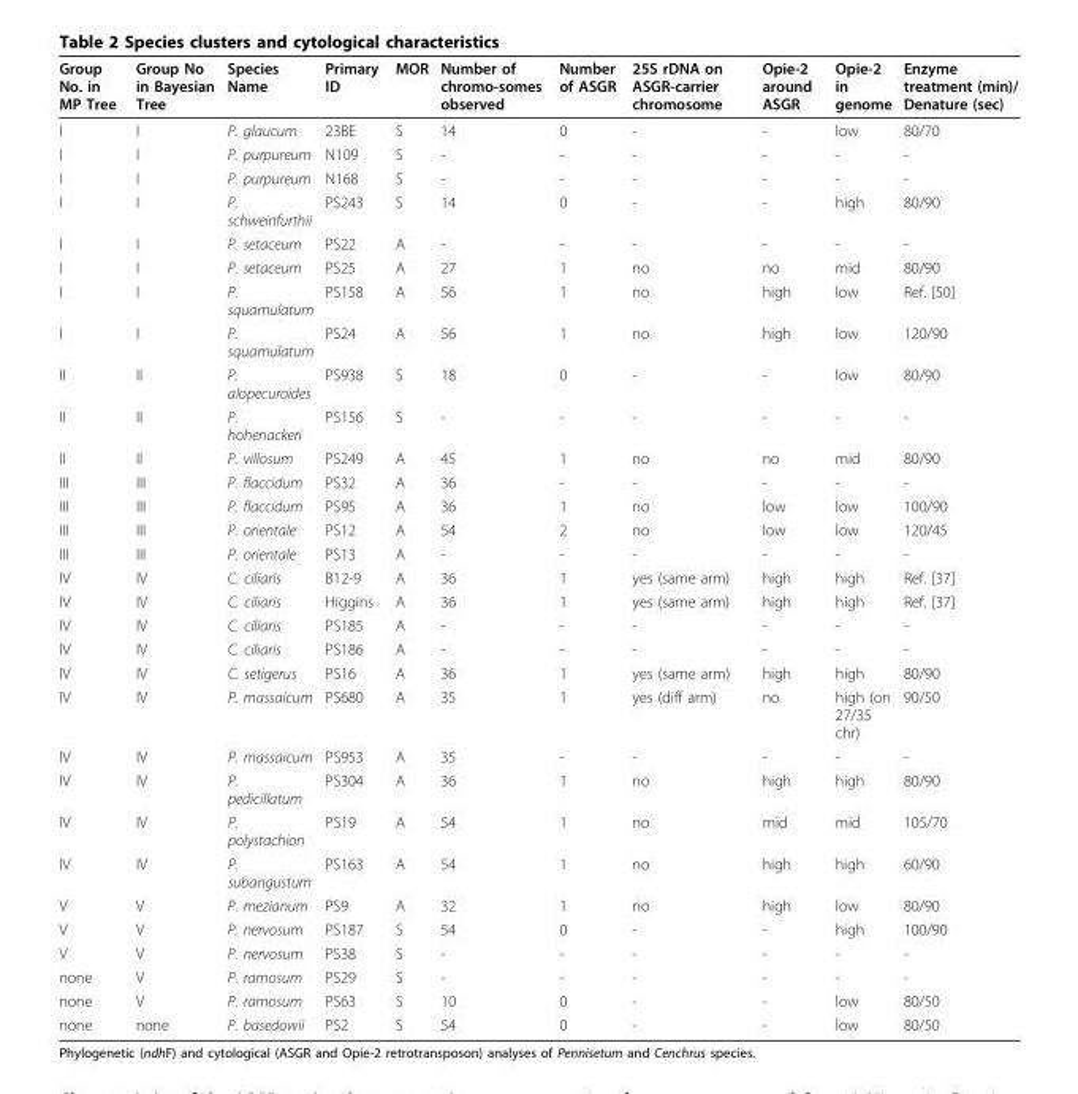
<table><thead><tr><td>Group No. in MP Tree</td><td>Group No in Bayesian Tree</td><td>Species Name</td><td>Primary ID</td><td>MOR</td><td>Number of chromo-somes observed</td><td>Number of ASGR</td><td>25S rDNA on ASGR-carrier chromosome</td><td>Opie-2 around ASGR</td><td>Opie-2 in genome</td><td>Enzyme treatment (min)/ Denature (sec)</td></tr></thead><tbody><tr><td>I</td><td>I</td><td>P. glaucum</td><td>23BE</td><td>S</td><td>14</td><td>0</td><td>-</td><td>-</td><td>low</td><td>80/70</td></tr><tr><td>I</td><td>I</td><td>P. purpureum</td><td>N109</td><td>S</td><td>-</td><td>-</td><td>-</td><td>-</td><td>-</td><td>-</td></tr><tr><td>I</td><td>I</td><td>P. purpureum</td><td>N168</td><td>S</td><td>-</td><td>-</td><td>-</td><td>-</td><td>-</td><td>-</td></tr><tr><td>I</td><td>I</td><td>P. schweinfurthii</td><td>PS243</td><td>S</td><td>14</td><td>0</td><td>-</td><td>-</td><td>high</td><td>80/90</td></tr><tr><td>I</td><td>I</td><td>P. setaceum</td><td>PS22</td><td>A</td><td>-</td><td>-</td><td>-</td><td>-</td><td>-</td><td>-</td></tr><tr><td>I</td><td>I</td><td>P. setaceum</td><td>PS25</td><td>A</td><td>27</td><td>1</td><td>no</td><td>no</td><td>mid</td><td>80/90</td></tr><tr><td>I</td><td>I</td><td>P. squamulatum</td><td>PS158</td><td>A</td><td>56</td><td>1</td><td>no</td><td>high</td><td>low</td><td>Ref. [50]</td></tr><tr><td>I</td><td>I</td><td>P. squamulatum</td><td>PS24</td><td>A</td><td>56</td><td>1</td><td>no</td><td>high</td><td>low</td><td>120/90</td></tr><tr><td>II</td><td>II</td><td>P. alopecuroides</td><td>PS938</td><td>S</td><td>18</td><td>0</td><td>-</td><td>-</td><td>low</td><td>80/90</td></tr><tr><td>II</td><td>II</td><td>P. hohenackeri</td><td>PS156</td><td>S</td><td>-</td><td>-</td><td>-</td><td>-</td><td>-</td><td>-</td></tr><tr><td>II</td><td>II</td><td>P. villosum</td><td>PS249</td><td>A</td><td>45</td><td>1</td><td>no</td><td>no</td><td>mid</td><td>80/90</td></tr><tr><td>III</td><td>III</td><td>P. flaccidum</td><td>PS32</td><td>A</td><td>36</td><td>-</td><td>-</td><td>-</td><td>-</td><td>-</td></tr><tr><td>III</td><td>III</td><td>P. flaccidum</td><td>PS95</td><td>A</td><td>36</td><td>1</td><td>no</td><td>low</td><td>low</td><td>100/90</td></tr><tr><td>III</td><td>III</td><td>P. orientale</td><td>PS12</td><td>A</td><td>54</td><td>2</td><td>no</td><td>low</td><td>low</td><td>120/45</td></tr><tr><td>III</td><td>III</td><td>P. orientale</td><td>PS13</td><td>A</td><td>-</td><td>-</td><td>-</td><td>-</td><td>-</td><td>-</td></tr><tr><td>IV</td><td>IV</td><td>C. ciliaris</td><td>B12-9</td><td>A</td><td>36</td><td>1</td><td>yes (same arm)</td><td>high</td><td>high</td><td>Ref. [37]</td></tr><tr><td>IV</td><td>IV</td><td>C. ciliaris</td><td>Higgins</td><td>A</td><td>36</td><td>1</td><td>yes (same arm)</td><td>high</td><td>high</td><td>Ref. [37]</td></tr><tr><td>IV</td><td>IV</td><td>C. ciliaris</td><td>PS185</td><td>A</td><td>-</td><td>-</td><td>-</td><td>-</td><td>-</td><td>-</td></tr><tr><td>IV</td><td>IV</td><td>C. ciliaris</td><td>PS186</td><td>A</td><td>-</td><td>-</td><td>-</td><td>-</td><td>-</td><td>-</td></tr><tr><td>IV</td><td>IV</td><td>C. setigerus</td><td>PS16</td><td>A</td><td>36</td><td>1</td><td>yes (same arm)</td><td>high</td><td>high</td><td>80/90</td></tr><tr><td>IV</td><td>IV</td><td>P. massaicum</td><td>PS680</td><td>A</td><td>35</td><td>1</td><td>yes (diff arm)</td><td>no</td><td>high (on 27/35 chr)</td><td>90/50</td></tr><tr><td>IV</td><td>IV</td><td>P. massaicum</td><td>PS953</td><td>A</td><td>35</td><td>-</td><td>-</td><td>-</td><td>-</td><td>-</td></tr><tr><td>IV</td><td>IV</td><td>P. pedicillatum</td><td>PS304</td><td>A</td><td>36</td><td>1</td><td>no</td><td>high</td><td>high</td><td>80/90</td></tr><tr><td>IV</td><td>IV</td><td>P. polystachion</td><td>PS19</td><td>A</td><td>54</td><td>1</td><td>no</td><td>mid</td><td>mid</td><td>105/70</td></tr><tr><td>IV</td><td>IV</td><td>P. subangustum</td><td>PS163</td><td>A</td><td>54</td><td>1</td><td>no</td><td>high</td><td>high</td><td>60/90</td></tr><tr><td>V</td><td>V</td><td>P. mezianum</td><td>PS9</td><td>A</td><td>32</td><td>1</td><td>no</td><td>high</td><td>low</td><td>80/90</td></tr><tr><td>V</td><td>V</td><td>P. nervosum</td><td>PS187</td><td>S</td><td>54</td><td>0</td><td>-</td><td>-</td><td>high</td><td>100/90</td></tr><tr><td>V</td><td>V</td><td>P. nervosum</td><td>PS38</td><td>S</td><td>-</td><td>-</td><td>-</td><td>-</td><td>-</td><td>-</td></tr><tr><td>none</td><td>V</td><td>P. ramosum</td><td>PS29</td><td>S</td><td>-</td><td>-</td><td>-</td><td>-</td><td>-</td><td>-</td></tr><tr><td>none</td><td>V</td><td>P. ramosum</td><td>PS63</td><td>S</td><td>10</td><td>0</td><td>-</td><td>-</td><td>low</td><td>80/50</td></tr><tr><td>none</td><td>none</td><td>P. basedowii</td><td>PS2</td><td>S</td><td>54</td><td>0</td><td>-</td><td>-</td><td>low</td><td>80/50</td></tr></tbody></table>